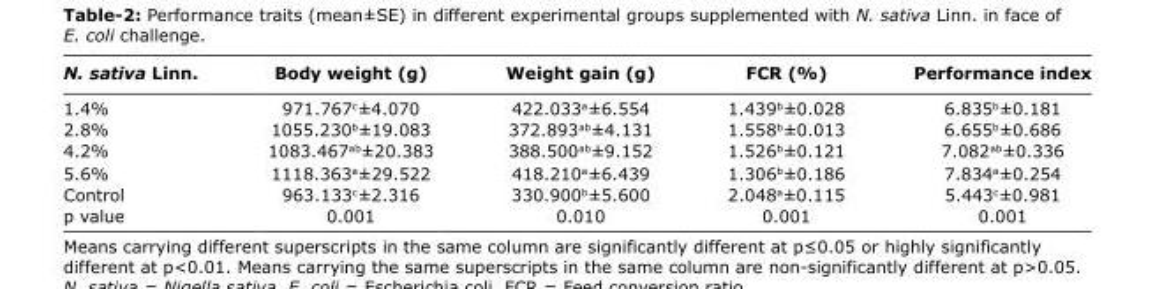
<table><thead><tr><td>N. sativa Linn.</td><td>Body weight (g)</td><td>Weight gain (g)</td><td>FCR (%)</td><td>Performance index</td></tr></thead><tbody><tr><td>1.4%</td><td>971.767<sup>c</sup>±4.070</td><td>422.033<sup>a</sup>±6.554</td><td>1.439<sup>b</sup>±0.028</td><td>6.835<sup>b</sup>±0.181</td></tr><tr><td>2.8%</td><td>1055.230<sup>b</sup>±19.083</td><td>372.893<sup>ab</sup>±4.131</td><td>1.558<sup>b</sup>±0.013</td><td>6.655<sup>b</sup>±0.686</td></tr><tr><td>4.2%</td><td>1083.467<sup>ab</sup>±20.383</td><td>388.500<sup>ab</sup>±9.152</td><td>1.526<sup>b</sup>±0.121</td><td>7.082<sup>ab</sup>±0.336</td></tr><tr><td>5.6%</td><td>1118.363<sup>a</sup>±29.522</td><td>418.210<sup>a</sup>±6.439</td><td>1.306<sup>b</sup>±0.186</td><td>7.834<sup>a</sup>±0.254</td></tr><tr><td>Control</td><td>963.133<sup>c</sup>±2.316</td><td>330.900<sup>b</sup>±5.600</td><td>2.048<sup>a</sup>±0.115</td><td>5.443<sup>c</sup>±0.981</td></tr><tr><td>p value</td><td>0.001</td><td>0.010</td><td>0.001</td><td>0.001</td></tr></tbody></table>